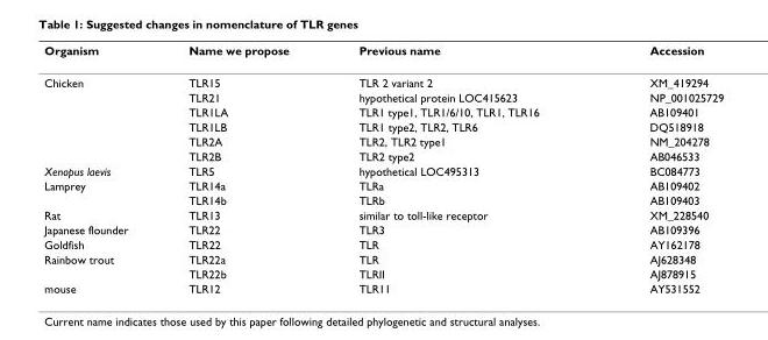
<table><thead><tr><td>Organism</td><td>Name we propose</td><td>Previous name</td><td>Accession</td></tr></thead><tbody><tr><td rowspan="6">Chicken</td><td>TLR15</td><td>TLR 2 variant 2</td><td>XM_419294</td></tr><tr><td>TLR21</td><td>hypothetical protein LOC415623</td><td>NP_001025729</td></tr><tr><td>TLR1LA</td><td>TLR1 type1, TLR1/6/10, TLR1, TLR16</td><td>AB109401</td></tr><tr><td>TLR1LB</td><td>TLR1 type2, TLR2, TLR6</td><td>DQ518918</td></tr><tr><td>TLR2A</td><td>TLR2, TLR2 type1</td><td>NM_204278</td></tr><tr><td>TLR2B</td><td>TLR2 type2</td><td>AB046533</td></tr><tr><td>Xenopus laevis</td><td>TLR5</td><td>hypothetical LOC495313</td><td>BC084773</td></tr><tr><td rowspan="2">Lamprey</td><td>TLR14a</td><td>TLRa</td><td>AB109402</td></tr><tr><td>TLR14b</td><td>TLRb</td><td>AB109403</td></tr><tr><td>Rat</td><td>TLR13</td><td>similar to toll-like receptor</td><td>XM_228540</td></tr><tr><td>Japanese flounder</td><td>TLR22</td><td>TLR3</td><td>AB109396</td></tr><tr><td>Goldfish</td><td>TLR22</td><td>TLR</td><td>AY162178</td></tr><tr><td rowspan="2">Rainbow trout</td><td>TLR22a</td><td>TLR</td><td>AJ628348</td></tr><tr><td>TLR22b</td><td>TLRII</td><td>AJ878915</td></tr><tr><td>mouse</td><td>TLR12</td><td>TLR11</td><td>AY531552</td></tr></tbody></table>